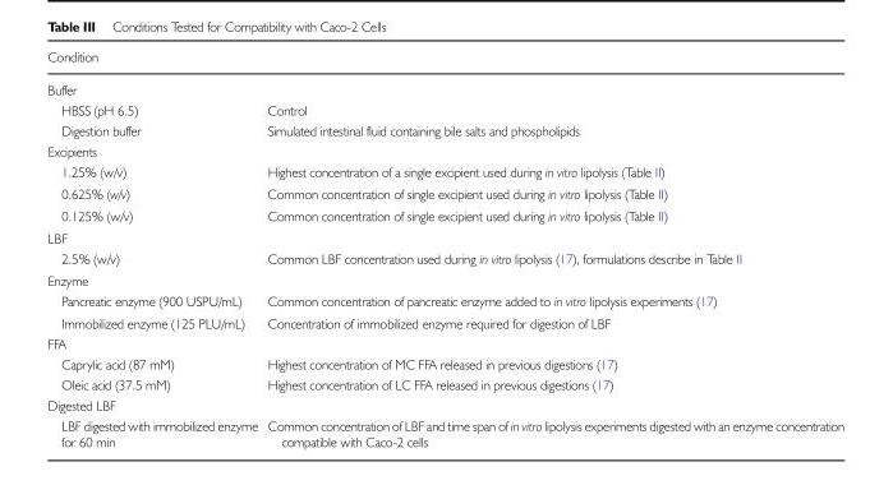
<table><thead><tr><td>Condition</td><td></td></tr></thead><tbody><tr><td colspan="2">Buffer</td></tr><tr><td>HBSS (pH 6.5)</td><td>Control</td></tr><tr><td>Digestion buffer</td><td>Simulated intestinal fluid containing bile salts and phospholipids</td></tr><tr><td colspan="2">Excipients</td></tr><tr><td>1.25% (w/v)</td><td>Highest concentration of a single excipient used during in vitro lipolysis (Table II)</td></tr><tr><td>0.625% (w/v)</td><td>Common concentration of single excipient used during in vitro lipolysis (Table II)</td></tr><tr><td>0.125% (w/v)</td><td>Common concentration of single excipient used during in vitro lipolysis (Table II)</td></tr><tr><td colspan="2">LBF</td></tr><tr><td>2.5% (w/v)</td><td>Common LBF concentration used during in vitro lipolysis (17), formulations describe in Table II</td></tr><tr><td colspan="2">Enzyme</td></tr><tr><td>Pancreatic enzyme (900 USPU/mL)</td><td>Common concentration of pancreatic enzyme added to in vitro lipolysis experiments (17)</td></tr><tr><td>Immobilized enzyme (125 PLU/mL)</td><td>Concentration of immobilized enzyme required for digestion of LBF</td></tr><tr><td colspan="2">FFA</td></tr><tr><td>Caprylic acid (87 mM)</td><td>Highest concentration of MC FFA released in previous digestions (17)</td></tr><tr><td>Oleic acid (37.5 mM)</td><td>Highest concentration of LC FFA released in previous digestions (17)</td></tr><tr><td colspan="2">Digested LBF</td></tr><tr><td>LBF digested with immobilized enzyme for 60 min</td><td>Common concentration of LBF and time span of in vitro lipolysis experiments digested with an enzyme concentration compatible with Caco-2 cells</td></tr></tbody></table>